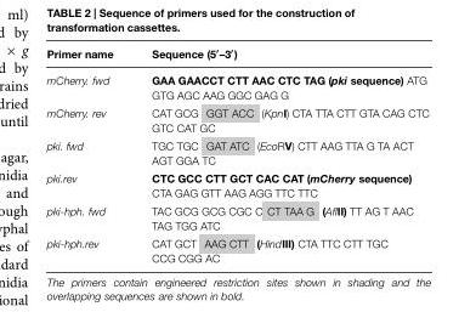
<table><thead><tr><td>Primer name</td><td>Sequence (5′–3′)</td></tr></thead><tbody><tr><td>mCherry. fwd</td><td>GAA GAACCT CTT AAC CTC TAG (pki sequence) ATG GTG AGC AAG GGC GAG G</td></tr><tr><td>mCherry. rev</td><td>CAT GCG GGT ACC (KpnI) CTA TTA CTT GTA CAG CTC GTC CAT GC</td></tr><tr><td>pki. fwd</td><td>TGC TGC GAT ATC (EcoRV) CTT AAG TTA G TA ACT AGT GGA TC</td></tr><tr><td>pki.rev</td><td>CTC GCC CTT GCT CAC CAT (mCherry sequence) CTA GAG GTT AAG AGG TTC TTC</td></tr><tr><td>pki-hph. fwd</td><td>TAC GCG GCG CGC C CT TAA G (AflII) TT AG T AAC TAG TGG ATC</td></tr><tr><td>pki-hph.rev</td><td>CAT GCT AAG CTT (HindIII) CTA TTC CTT TGC CCG CGG AC</td></tr></tbody></table>